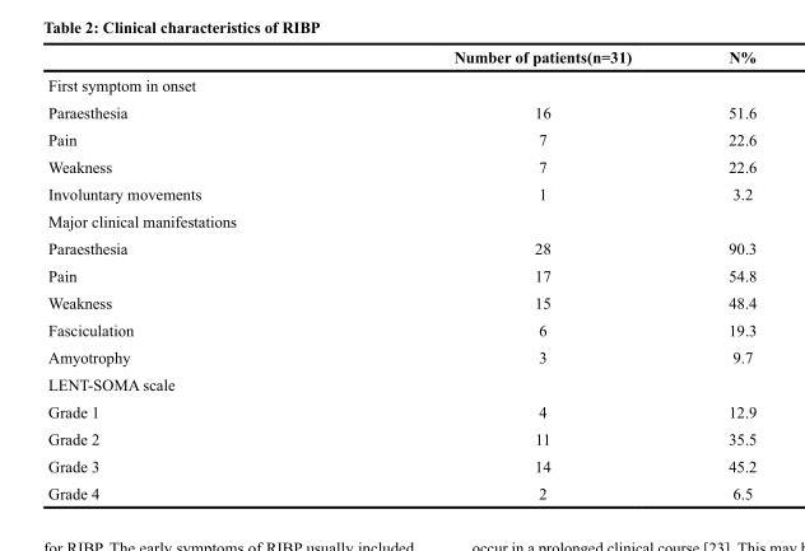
<table><thead><tr><td></td><td>Number of patients(n=31)</td><td>N%</td></tr></thead><tbody><tr><td colspan="3">First symptom in onset</td></tr><tr><td>Paraesthesia</td><td>16</td><td>51.6</td></tr><tr><td>Pain</td><td>7</td><td>22.6</td></tr><tr><td>Weakness</td><td>7</td><td>22.6</td></tr><tr><td>Involuntary movements</td><td>1</td><td>3.2</td></tr><tr><td colspan="3">Major clinical manifestations</td></tr><tr><td>Paraesthesia</td><td>28</td><td>90.3</td></tr><tr><td>Pain</td><td>17</td><td>54.8</td></tr><tr><td>Weakness</td><td>15</td><td>48.4</td></tr><tr><td>Fasciculation</td><td>6</td><td>19.3</td></tr><tr><td>Amyotrophy</td><td>3</td><td>9.7</td></tr><tr><td colspan="3">LENT-SOMA scale</td></tr><tr><td>Grade 1</td><td>4</td><td>12.9</td></tr><tr><td>Grade 2</td><td>11</td><td>35.5</td></tr><tr><td>Grade 3</td><td>14</td><td>45.2</td></tr><tr><td>Grade 4</td><td>2</td><td>6.5</td></tr></tbody></table>